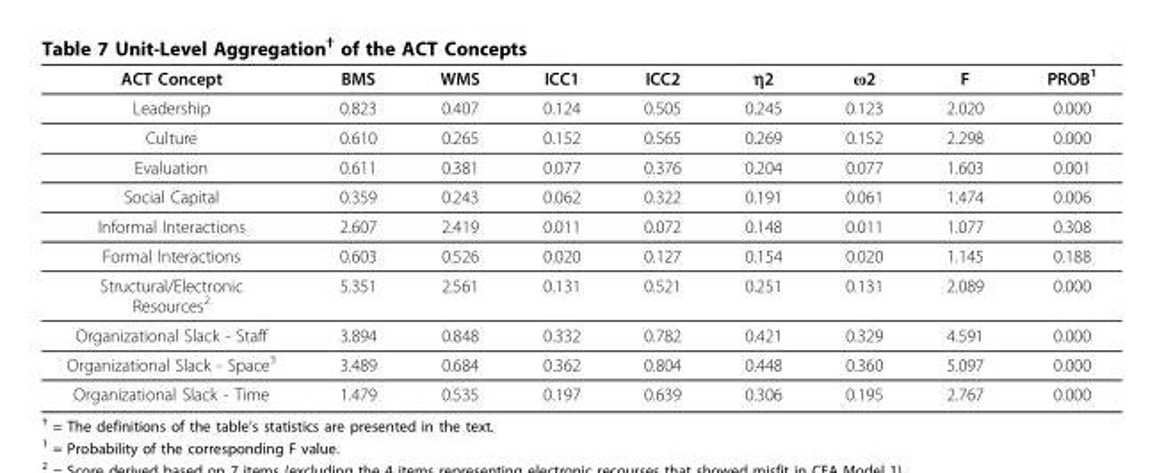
<table><thead><tr><td>ACT Concept</td><td>BMS</td><td>WMS</td><td>ICC1</td><td>ICC2</td><td>η2</td><td>ω2</td><td>F</td><td>PROB<sup>1</sup></td></tr></thead><tbody><tr><td>Leadership</td><td>0.823</td><td>0.407</td><td>0.124</td><td>0.505</td><td>0.245</td><td>0.123</td><td>2.020</td><td>0.000</td></tr><tr><td>Culture</td><td>0.610</td><td>0.265</td><td>0.152</td><td>0.565</td><td>0.269</td><td>0.152</td><td>2.298</td><td>0.000</td></tr><tr><td>Evaluation</td><td>0.611</td><td>0.381</td><td>0.077</td><td>0.376</td><td>0.204</td><td>0.077</td><td>1.603</td><td>0.001</td></tr><tr><td>Social Capital</td><td>0.359</td><td>0.243</td><td>0.062</td><td>0.322</td><td>0.191</td><td>0.061</td><td>1.474</td><td>0.006</td></tr><tr><td>Informal Interactions</td><td>2.607</td><td>2.419</td><td>0.011</td><td>0.072</td><td>0.148</td><td>0.011</td><td>1.077</td><td>0.308</td></tr><tr><td>Formal Interactions</td><td>0.603</td><td>0.526</td><td>0.020</td><td>0.127</td><td>0.154</td><td>0.020</td><td>1.145</td><td>0.188</td></tr><tr><td>Structural/Electronic Resources<sup>2</sup></td><td>5.351</td><td>2.561</td><td>0.131</td><td>0.521</td><td>0.251</td><td>0.131</td><td>2.089</td><td>0.000</td></tr><tr><td>Organizational Slack - Staff</td><td>3.894</td><td>0.848</td><td>0.332</td><td>0.782</td><td>0.421</td><td>0.329</td><td>4.591</td><td>0.000</td></tr><tr><td>Organizational Slack - Space<sup>3</sup></td><td>3.489</td><td>0.684</td><td>0.362</td><td>0.804</td><td>0.448</td><td>0.360</td><td>5.097</td><td>0.000</td></tr><tr><td>Organizational Slack - Time</td><td>1.479</td><td>0.535</td><td>0.197</td><td>0.639</td><td>0.306</td><td>0.195</td><td>2.767</td><td>0.000</td></tr></tbody></table>